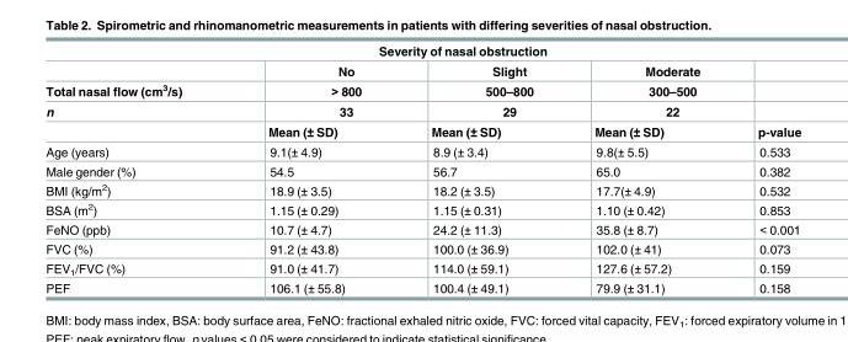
<table><thead><tr><td colspan="5">Severity of nasal obstruction</td></tr><tr><td rowspan="4">Total nasal flow (cm<sup>3</sup>/s) n</td><td rowspan="4">No &gt; 800 33 Mean (± SD)</td><td rowspan="4">Slight 500–800 29 Mean (± SD)</td><td rowspan="4">Moderate 300–500 22 Mean (± SD)</td><td rowspan="4">p-value</td></tr><tr></tr><tr></tr><tr></tr></thead><tbody><tr><td>Age (years)</td><td>9.1(± 4.9)</td><td>8.9 (± 3.4)</td><td>9.8(± 5.5)</td><td>0.533</td></tr><tr><td>Male gender (%)</td><td>54.5</td><td>56.7</td><td>65.0</td><td>0.382</td></tr><tr><td>BMI (kg/m<sup>2</sup>)</td><td>18.9 (± 3.5)</td><td>18.2 (± 3.5)</td><td>17.7(± 4.9)</td><td>0.532</td></tr><tr><td>BSA (m<sup>2</sup>)</td><td>1.15 (± 0.29)</td><td>1.15 (± 0.31)</td><td>1.10 (± 0.42)</td><td>0.853</td></tr><tr><td>FeNO (ppb)</td><td>10.7 (± 4.7)</td><td>24.2 (± 11.3)</td><td>35.8 (± 8.7)</td><td>&lt; 0.001</td></tr><tr><td>FVC (%)</td><td>91.2 (± 43.8)</td><td>100.0 (± 36.9)</td><td>102.0 (± 41)</td><td>0.073</td></tr><tr><td>FEV<sub>1</sub>/FVC (%)</td><td>91.0 (± 41.7)</td><td>114.0 (± 59.1)</td><td>127.6 (± 57.2)</td><td>0.159</td></tr><tr><td>PEF</td><td>106.1 (± 55.8)</td><td>100.4 (± 49.1)</td><td>79.9 (± 31.1)</td><td>0.158</td></tr></tbody></table>